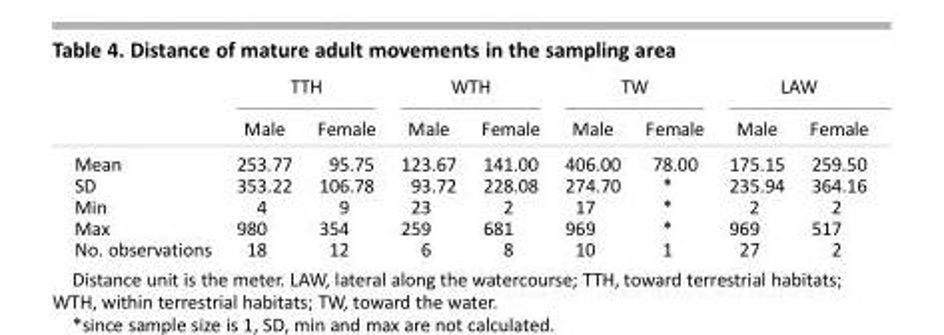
<table><thead><tr><td rowspan="2"></td><td colspan="2">TTH</td><td colspan="2">WTH</td><td colspan="2">TW</td><td colspan="2">LAW</td></tr><tr><td>Male</td><td>Female</td><td>Male</td><td>Female</td><td>Male</td><td>Female</td><td>Male</td><td>Female</td></tr></thead><tbody><tr><td>Mean</td><td>253.77</td><td>95.75</td><td>123.67</td><td>141.00</td><td>406.00</td><td>78.00</td><td>175.15</td><td>259.50</td></tr><tr><td>SD</td><td>353.22</td><td>106.78</td><td>93.72</td><td>228.08</td><td>274.70</td><td>*</td><td>235.94</td><td>364.16</td></tr><tr><td>Min</td><td>4</td><td>9</td><td>23</td><td>2</td><td>17</td><td>*</td><td>2</td><td>2</td></tr><tr><td>Max</td><td>980</td><td>354</td><td>259</td><td>681</td><td>969</td><td>*</td><td>969</td><td>517</td></tr><tr><td>No. observations</td><td>18</td><td>12</td><td>6</td><td>8</td><td>10</td><td>1</td><td>27</td><td>2</td></tr></tbody></table>